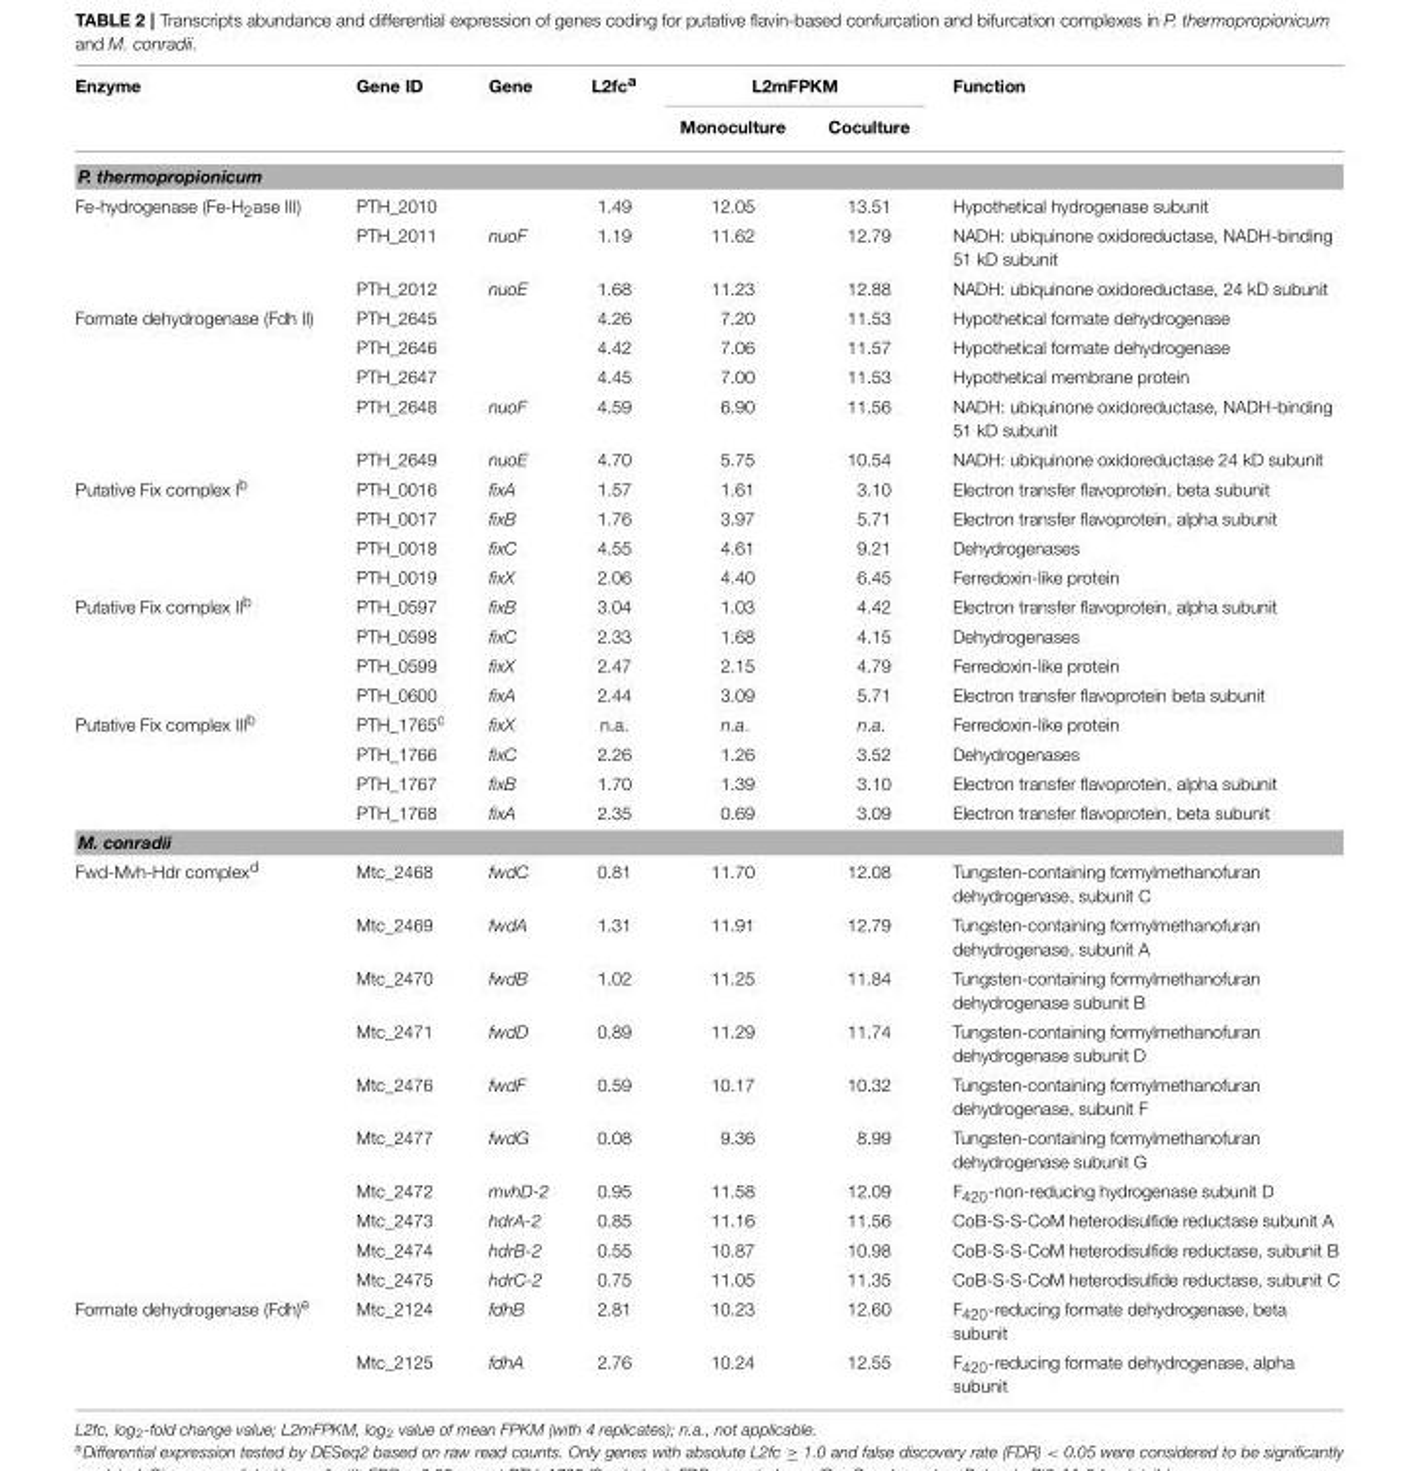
<table><thead><tr><td rowspan="2">Enzyme</td><td rowspan="2">Gene ID</td><td rowspan="2">Gene</td><td rowspan="2">L2fc<sup>a</sup></td><td colspan="2">L2mFPKM</td><td rowspan="2">Function</td></tr><tr><td>Monoculture</td><td>Coculture</td></tr></thead><tbody><tr><td colspan="7">P. thermopropionicum</td></tr><tr><td rowspan="3">Fe-hydrogenase (Fe-H<sub>2</sub>ase III)</td><td>PTH_2010</td><td></td><td>1.49</td><td>12.05</td><td>13.51</td><td>Hypothetical hydrogenase subunit</td></tr><tr><td>PTH_2011</td><td>nuoF</td><td>1.19</td><td>11.62</td><td>12.79</td><td>NADH: ubiquinone oxidoreductase, NADH-binding 51 kD subunit</td></tr><tr><td>PTH_2012</td><td>nuoE</td><td>1.68</td><td>11.23</td><td>12.88</td><td>NADH: ubiquinone oxidoreductase, 24 kD subunit</td></tr><tr><td rowspan="5">Formate dehydrogenase (Fdh II)</td><td>PTH_2645</td><td></td><td>4.26</td><td>7.20</td><td>11.53</td><td>Hypothetical formate dehydrogenase</td></tr><tr><td>PTH_2646</td><td></td><td>4.42</td><td>7.06</td><td>11.57</td><td>Hypothetical formate dehydrogenase</td></tr><tr><td>PTH_2647</td><td></td><td>4.45</td><td>7.00</td><td>11.53</td><td>Hypothetical membrane protein</td></tr><tr><td>PTH_2648</td><td>nuoF</td><td>4.59</td><td>6.90</td><td>11.56</td><td>NADH: ubiquinone oxidoreductase, NADH-binding 51 kD subunit</td></tr><tr><td>PTH_2649</td><td>nuoE</td><td>4.70</td><td>5.75</td><td>10.54</td><td>NADH: ubiquinone oxidoreductase 24 kD subunit</td></tr><tr><td rowspan="4">Putative Fix complex I<sup>b</sup></td><td>PTH_0016</td><td>fixA</td><td>1.57</td><td>1.61</td><td>3.10</td><td>Electron transfer flavoprotein, beta subunit</td></tr><tr><td>PTH_0017</td><td>fixB</td><td>1.76</td><td>3.97</td><td>5.71</td><td>Electron transfer flavoprotein, alpha subunit</td></tr><tr><td>PTH_0018</td><td>fixC</td><td>4.55</td><td>4.61</td><td>9.21</td><td>Dehydrogenases</td></tr><tr><td>PTH_0019</td><td>fixX</td><td>2.06</td><td>4.40</td><td>6.45</td><td>Ferredoxin-like protein</td></tr><tr><td rowspan="4">Putative Fix complex II<sup>b</sup></td><td>PTH_0597</td><td>fixB</td><td>3.04</td><td>1.03</td><td>4.42</td><td>Electron transfer flavoprotein, alpha subunit</td></tr><tr><td>PTH_0598</td><td>fixC</td><td>2.33</td><td>1.68</td><td>4.15</td><td>Dehydrogenases</td></tr><tr><td>PTH_0599</td><td>fixX</td><td>2.47</td><td>2.15</td><td>4.79</td><td>Ferredoxin-like protein</td></tr><tr><td>PTH_0600</td><td>fixA</td><td>2.44</td><td>3.09</td><td>5.71</td><td>Electron transfer flavoprotein beta subunit</td></tr><tr><td rowspan="4">Putative Fix complex III<sup>b</sup></td><td>PTH_1765<sup>c</sup></td><td>fixX</td><td>n.a.</td><td>n.a.</td><td>n.a.</td><td>Ferredoxin-like protein</td></tr><tr><td>PTH_1766</td><td>fixC</td><td>2.26</td><td>1.26</td><td>3.52</td><td>Dehydrogenases</td></tr><tr><td>PTH_1767</td><td>fixB</td><td>1.70</td><td>1.39</td><td>3.10</td><td>Electron transfer flavoprotein, alpha subunit</td></tr><tr><td>PTH_1768</td><td>fixA</td><td>2.35</td><td>0.69</td><td>3.09</td><td>Electron transfer flavoprotein, beta subunit</td></tr><tr><td colspan="7">M. conradii</td></tr><tr><td rowspan="10">Fwd-Mvh-Hdr complex<sup>d</sup></td><td>Mtc_2468</td><td>fwdC</td><td>0.81</td><td>11.70</td><td>12.08</td><td>Tungsten-containing formylmethanofuran dehydrogenase, subunit C</td></tr><tr><td>Mtc_2469</td><td>fwdA</td><td>1.31</td><td>11.91</td><td>12.79</td><td>Tungsten-containing formylmethanofuran dehydrogenase, subunit A</td></tr><tr><td>Mtc_2470</td><td>fwdB</td><td>1.02</td><td>11.25</td><td>11.84</td><td>Tungsten-containing formylmethanofuran dehydrogenase subunit B</td></tr><tr><td>Mtc_2471</td><td>fwdD</td><td>0.89</td><td>11.29</td><td>11.74</td><td>Tungsten-containing formylmethanofuran dehydrogenase subunit D</td></tr><tr><td>Mtc_2476</td><td>fwdF</td><td>0.59</td><td>10.17</td><td>10.32</td><td>Tungsten-containing formylmethanofuran dehydrogenase, subunit F</td></tr><tr><td>Mtc_2477</td><td>fwdG</td><td>0.08</td><td>9.36</td><td>8.99</td><td>Tungsten-containing formylmethanofuran dehydrogenase subunit G</td></tr><tr><td>Mtc_2472</td><td>mvhD-2</td><td>0.95</td><td>11.58</td><td>12.09</td><td>F<sub>420</sub>-non-reducing hydrogenase subunit D</td></tr><tr><td>Mtc_2473</td><td>hdrA-2</td><td>0.85</td><td>11.16</td><td>11.56</td><td>CoB-S-S-CoM heterodisulfide reductase subunit A</td></tr><tr><td>Mtc_2474</td><td>hdrB-2</td><td>0.55</td><td>10.87</td><td>10.98</td><td>CoB-S-S-CoM heterodisulfide reductase, subunit B</td></tr><tr><td>Mtc_2475</td><td>hdrC-2</td><td>0.75</td><td>11.05</td><td>11.35</td><td>CoB-S-S-CoM heterodisulfide reductase, subunit C</td></tr><tr><td rowspan="2">Formate dehydrogenase (Fdh)<sup>e</sup></td><td>Mtc_2124</td><td>fdhB</td><td>2.81</td><td>10.23</td><td>12.60</td><td>F<sub>420</sub>-reducing formate dehydrogenase, beta subunit</td></tr><tr><td>Mtc_2125</td><td>fdhA</td><td>2.76</td><td>10.24</td><td>12.55</td><td>F<sub>420</sub>-reducing formate dehydrogenase, alpha subunit</td></tr></tbody></table>